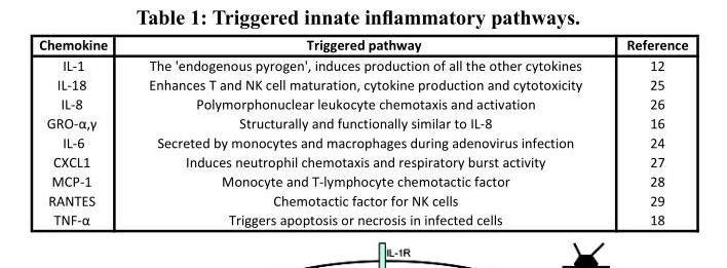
<table><thead><tr><td>Chemokine</td><td>Triggered pathway</td><td>Reference</td></tr></thead><tbody><tr><td>IL-1</td><td>The &#x27;endogenous pyrogen&#x27;, induces production of all the other cytokines</td><td>12</td></tr><tr><td>IL-18</td><td>Enhances T and NK cell maturation, cytokine production and cytotoxicity</td><td>25</td></tr><tr><td>IL-8</td><td>Polymorphonuclear leukocyte chemotaxis and activation</td><td>26</td></tr><tr><td>GRO-α,γ</td><td>Structurally and functionally similar to IL-8</td><td>16</td></tr><tr><td>IL-6</td><td>Secreted by monocytes and macrophages during adenovirus infection</td><td>24</td></tr><tr><td>CXCL1</td><td>Induces neutrophil chemotaxis and respiratory burst activity</td><td>27</td></tr><tr><td>MCP-1</td><td>Monocyte and T-lymphocyte chemotactic factor</td><td>28</td></tr><tr><td>RANTES</td><td>Chemotactic factor for NK cells</td><td>29</td></tr><tr><td>TNF-α</td><td>Triggers apoptosis or necrosis in infected cells</td><td>18</td></tr></tbody></table>